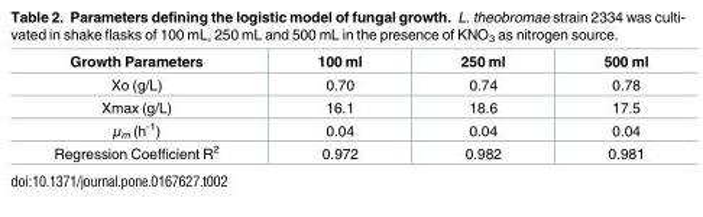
<table><thead><tr><td>Growth Parameters</td><td>100 ml</td><td>250 ml</td><td>500 ml</td></tr></thead><tbody><tr><td>Xo (g/L)</td><td>0.70</td><td>0.74</td><td>0.78</td></tr><tr><td>Xmax (g/L)</td><td>16.1</td><td>18.6</td><td>17.5</td></tr><tr><td>μ<sub>m</sub> (h<sup>-1</sup>)</td><td>0.04</td><td>0.04</td><td>0.04</td></tr><tr><td>Regression Coefficient R<sup>2</sup></td><td>0.972</td><td>0.982</td><td>0.981</td></tr></tbody></table>